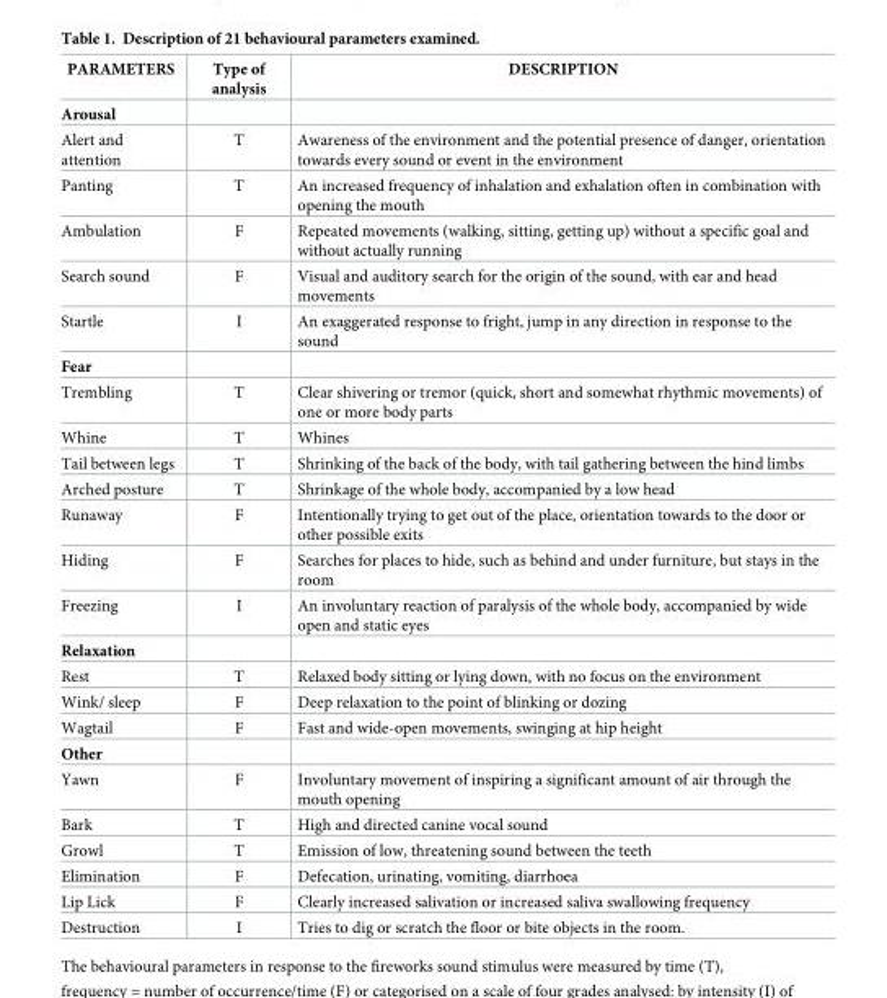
<table><thead><tr><td>PARAMETERS</td><td>Type of analysis</td><td>DESCRIPTION</td></tr></thead><tbody><tr><td colspan="3">Arousal</td></tr><tr><td>Alert and attention</td><td>T</td><td>Awareness of the environment and the potential presence of danger, orientation towards every sound or event in the environment</td></tr><tr><td>Panting</td><td>T</td><td>An increased frequency of inhalation and exhalation often in combination with opening the mouth</td></tr><tr><td>Ambulation</td><td>F</td><td>Repeated movements (walking, sitting, getting up) without a specific goal and without actually running</td></tr><tr><td>Search sound</td><td>F</td><td>Visual and auditory search for the origin of the sound, with ear and head movements</td></tr><tr><td>Startle</td><td>I</td><td>An exaggerated response to fright, jump in any direction in response to the sound</td></tr><tr><td colspan="3">Fear</td></tr><tr><td>Trembling</td><td>T</td><td>Clear shivering or tremor (quick, short and somewhat rhythmic movements) of one or more body parts</td></tr><tr><td>Whine</td><td>T</td><td>Whines</td></tr><tr><td>Tail between legs</td><td>T</td><td>Shrinking of the back of the body, with tail gathering between the hind limbs</td></tr><tr><td>Arched posture</td><td>T</td><td>Shrinkage of the whole body, accompanied by a low head</td></tr><tr><td>Runaway</td><td>F</td><td>Intentionally trying to get out of the place, orientation towards to the door or other possible exits</td></tr><tr><td>Hiding</td><td>F</td><td>Searches for places to hide, such as behind and under furniture, but stays in the room</td></tr><tr><td>Freezing</td><td>I</td><td>An involuntary reaction of paralysis of the whole body, accompanied by wide open and static eyes</td></tr><tr><td colspan="3">Relaxation</td></tr><tr><td>Rest</td><td>T</td><td>Relaxed body sitting or lying down, with no focus on the environment</td></tr><tr><td>Wink/ sleep</td><td>F</td><td>Deep relaxation to the point of blinking or dozing</td></tr><tr><td>Wagtail</td><td>F</td><td>Fast and wide-open movements, swinging at hip height</td></tr><tr><td colspan="3">Other</td></tr><tr><td>Yawn</td><td>F</td><td>Involuntary movement of inspiring a significant amount of air through the mouth opening</td></tr><tr><td>Bark</td><td>T</td><td>High and directed canine vocal sound</td></tr><tr><td>Growl</td><td>T</td><td>Emission of low, threatening sound between the teeth</td></tr><tr><td>Elimination</td><td>F</td><td>Defecation, urinating, vomiting, diarrhoea</td></tr><tr><td>Lip Lick</td><td>F</td><td>Clearly increased salivation or increased saliva swallowing frequency</td></tr><tr><td>Destruction</td><td>I</td><td>Tries to dig or scratch the floor or bite objects in the room.</td></tr></tbody></table>